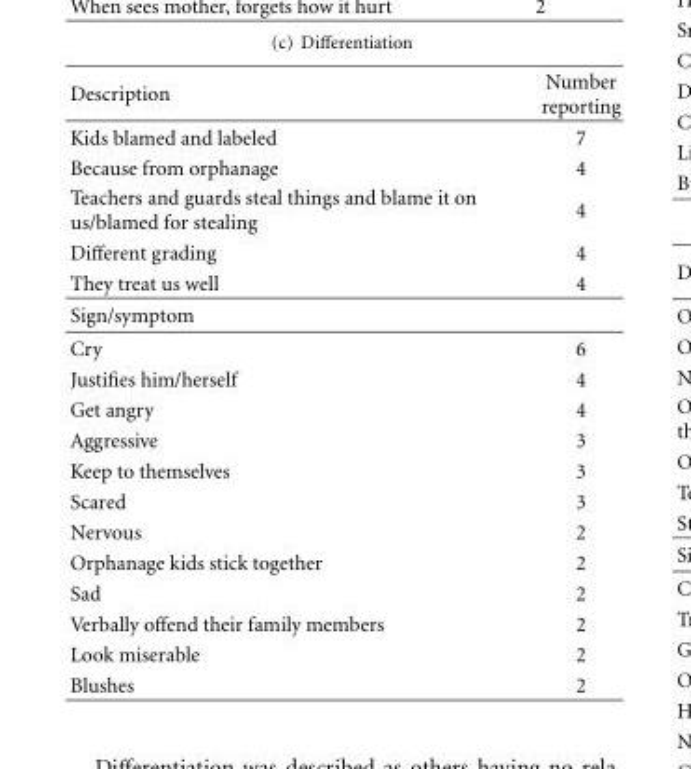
<table><thead><tr><td>Description</td><td>Number reporting</td></tr></thead><tbody><tr><td>Kids blamed and labeled</td><td>7</td></tr><tr><td>Because from orphanage</td><td>4</td></tr><tr><td>Teachers and guards steal things and blame it on us/blamed for stealing</td><td>4</td></tr><tr><td>Different grading</td><td>4</td></tr><tr><td>They treat us well</td><td>4</td></tr><tr><td colspan="2">Sign/symptom</td></tr><tr><td>Cry</td><td>6</td></tr><tr><td>Justifies him/herself</td><td>4</td></tr><tr><td>Get angry</td><td>4</td></tr><tr><td>Aggressive</td><td>3</td></tr><tr><td>Keep to themselves</td><td>3</td></tr><tr><td>Scared</td><td>3</td></tr><tr><td>Nervous</td><td>2</td></tr><tr><td>Orphanage kids stick together</td><td>2</td></tr><tr><td>Sad</td><td>2</td></tr><tr><td>Verbally offend their family members</td><td>2</td></tr><tr><td>Look miserable</td><td>2</td></tr><tr><td>Blushes</td><td>2</td></tr></tbody></table>